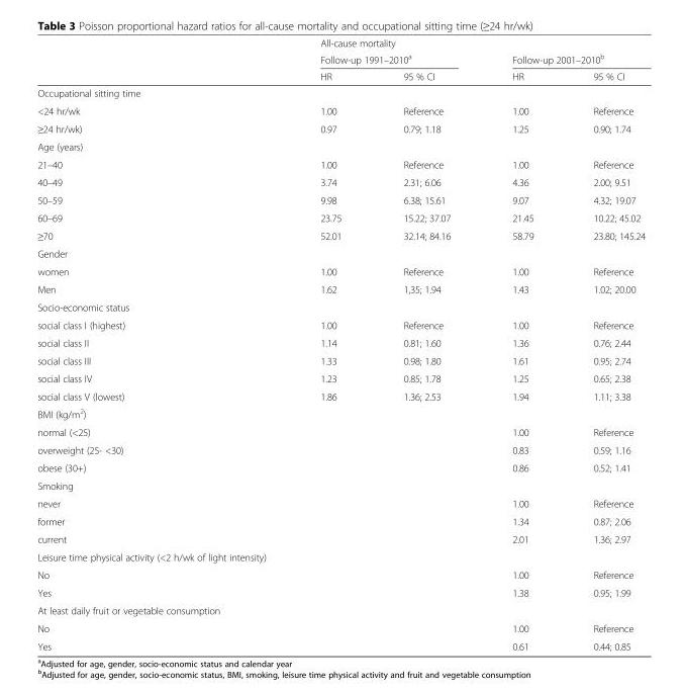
<table><thead><tr><td rowspan="3"></td><td colspan="4">All-cause mortality</td></tr><tr><td colspan="2">Follow-up 1991–2010<sup>a</sup></td><td colspan="2">Follow-up 2001–2010<sup>b</sup></td></tr><tr><td>HR</td><td>95 % CI</td><td>HR</td><td>95 % CI</td></tr></thead><tbody><tr><td colspan="5">Occupational sitting time</td></tr><tr><td>&lt;24 hr/wk</td><td>1.00</td><td>Reference</td><td>1.00</td><td>Reference</td></tr><tr><td>≥24 hr/wk)</td><td>0.97</td><td>0.79; 1.18</td><td>1.25</td><td>0.90; 1.74</td></tr><tr><td colspan="5">Age (years)</td></tr><tr><td>21–40</td><td>1.00</td><td>Reference</td><td>1.00</td><td>Reference</td></tr><tr><td>40–49</td><td>3.74</td><td>2.31; 6.06</td><td>4.36</td><td>2.00; 9.51</td></tr><tr><td>50–59</td><td>9.98</td><td>6.38; 15.61</td><td>9.07</td><td>4.32; 19.07</td></tr><tr><td>60–69</td><td>23.75</td><td>15.22; 37.07</td><td>21.45</td><td>10.22; 45.02</td></tr><tr><td>≥70</td><td>52.01</td><td>32.14; 84.16</td><td>58.79</td><td>23.80; 145.24</td></tr><tr><td colspan="5">Gender</td></tr><tr><td>women</td><td>1.00</td><td>Reference</td><td>1.00</td><td>Reference</td></tr><tr><td>Men</td><td>1.62</td><td>1,35; 1.94</td><td>1.43</td><td>1.02; 20.00</td></tr><tr><td colspan="5">Socio-economic status</td></tr><tr><td>social class I (highest)</td><td>1.00</td><td>Reference</td><td>1.00</td><td>Reference</td></tr><tr><td>social class II</td><td>1.14</td><td>0.81; 1.60</td><td>1.36</td><td>0.76; 2.44</td></tr><tr><td>social class III</td><td>1.33</td><td>0.98; 1.80</td><td>1.61</td><td>0.95; 2.74</td></tr><tr><td>social class IV</td><td>1.23</td><td>0.85; 1.78</td><td>1.25</td><td>0.65; 2.38</td></tr><tr><td>social class V (lowest)</td><td>1.86</td><td>1.36; 2.53</td><td>1.94</td><td>1.11; 3.38</td></tr><tr><td colspan="5">BMI (kg/m<sup>2</sup>)</td></tr><tr><td>normal (&lt;25)</td><td></td><td></td><td>1.00</td><td>Reference</td></tr><tr><td>overweight (25- &lt;30)</td><td></td><td></td><td>0.83</td><td>0.59; 1.16</td></tr><tr><td>obese (30+)</td><td></td><td></td><td>0.86</td><td>0.52; 1.41</td></tr><tr><td colspan="5">Smoking</td></tr><tr><td>never</td><td></td><td></td><td>1.00</td><td>Reference</td></tr><tr><td>former</td><td></td><td></td><td>1.34</td><td>0.87; 2.06</td></tr><tr><td>current</td><td></td><td></td><td>2.01</td><td>1.36; 2.97</td></tr><tr><td colspan="5">Leisure time physical activity (&lt;2 h/wk of light intensity)</td></tr><tr><td>No</td><td></td><td></td><td>1.00</td><td>Reference</td></tr><tr><td>Yes</td><td></td><td></td><td>1.38</td><td>0.95; 1.99</td></tr><tr><td colspan="5">At least daily fruit or vegetable consumption</td></tr><tr><td>No</td><td></td><td></td><td>1.00</td><td>Reference</td></tr><tr><td>Yes</td><td></td><td></td><td>0.61</td><td>0.44; 0.85</td></tr></tbody></table>